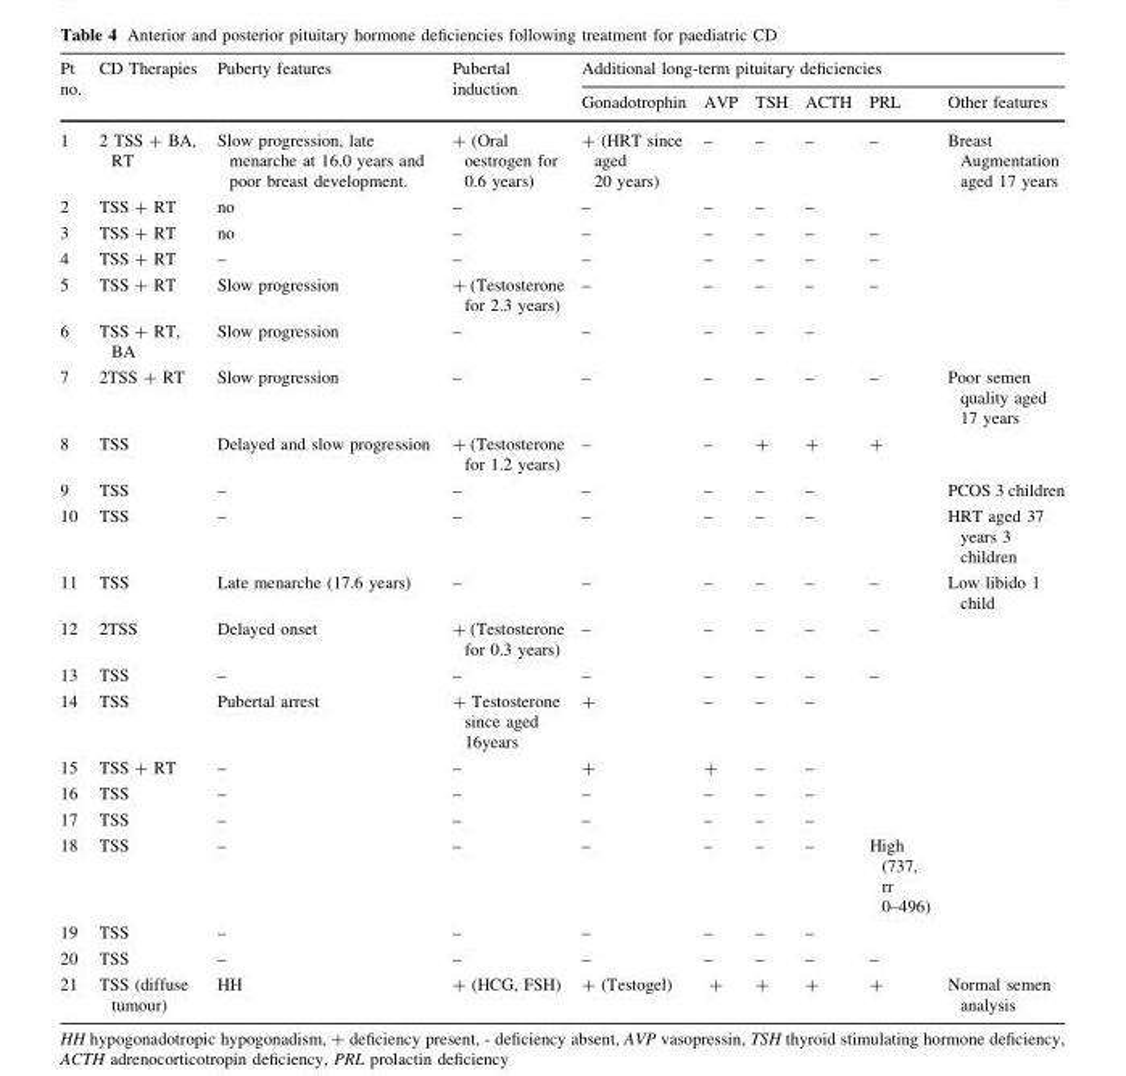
<table><thead><tr><td rowspan="2">Pt no.</td><td rowspan="2">CD Therapies</td><td rowspan="2">Puberty features</td><td rowspan="2">Pubertal induction</td><td colspan="6">Additional long-term pituitary deficiencies</td></tr><tr><td>Gonadotrophin</td><td>AVP</td><td>TSH</td><td>ACTH</td><td>PRL</td><td>Other features</td></tr></thead><tbody><tr><td>1</td><td>2 TSS + BA, RT</td><td>Slow progression, late menarche at 16.0 years and poor breast development.</td><td>+ (Oral oestrogen for 0.6 years)</td><td>+ (HRT since aged 20 years)</td><td>–</td><td>–</td><td>–</td><td>–</td><td>Breast Augmentation aged 17 years</td></tr><tr><td>2</td><td>TSS + RT</td><td>no</td><td>–</td><td>–</td><td>–</td><td>–</td><td>–</td><td></td><td></td></tr><tr><td>3</td><td>TSS + RT</td><td>no</td><td>–</td><td>–</td><td>–</td><td>–</td><td>–</td><td>–</td><td></td></tr><tr><td>4</td><td>TSS + RT</td><td>–</td><td>–</td><td>–</td><td>–</td><td>–</td><td>–</td><td>–</td><td></td></tr><tr><td>5</td><td>TSS + RT</td><td>Slow progression</td><td>+ (Testosterone for 2.3 years)</td><td>–</td><td>–</td><td>–</td><td>–</td><td>–</td><td></td></tr><tr><td>6</td><td>TSS + RT, BA</td><td>Slow progression</td><td>–</td><td>–</td><td>–</td><td>–</td><td>–</td><td></td><td></td></tr><tr><td>7</td><td>2TSS + RT</td><td>Slow progression</td><td>–</td><td>–</td><td>–</td><td>–</td><td>–</td><td>–</td><td>Poor semen quality aged 17 years</td></tr><tr><td>8</td><td>TSS</td><td>Delayed and slow progression</td><td>+ (Testosterone for 1.2 years)</td><td>–</td><td>–</td><td>+</td><td>+</td><td>+</td><td></td></tr><tr><td>9</td><td>TSS</td><td>–</td><td>–</td><td>–</td><td>–</td><td>–</td><td>–</td><td></td><td>PCOS 3 children</td></tr><tr><td>10</td><td>TSS</td><td>–</td><td>–</td><td>–</td><td>–</td><td>–</td><td>–</td><td></td><td>HRT aged 37 years 3 children</td></tr><tr><td>11</td><td>TSS</td><td>Late menarche (17.6 years)</td><td>–</td><td>–</td><td>–</td><td>–</td><td>–</td><td>–</td><td>Low libido 1 child</td></tr><tr><td>12</td><td>2TSS</td><td>Delayed onset</td><td>+ (Testosterone for 0.3 years)</td><td>–</td><td>–</td><td>–</td><td>–</td><td>–</td><td></td></tr><tr><td>13</td><td>TSS</td><td>–</td><td>–</td><td>–</td><td>–</td><td>–</td><td>–</td><td>–</td><td></td></tr><tr><td>14</td><td>TSS</td><td>Pubertal arrest</td><td>+ Testosterone since aged 16years</td><td>+</td><td>–</td><td>–</td><td>–</td><td></td><td></td></tr><tr><td>15</td><td>TSS + RT</td><td>–</td><td>–</td><td>+</td><td>+</td><td>–</td><td>–</td><td></td><td></td></tr><tr><td>16</td><td>TSS</td><td>–</td><td>–</td><td>–</td><td>–</td><td>–</td><td>–</td><td></td><td></td></tr><tr><td>17</td><td>TSS</td><td>–</td><td>–</td><td>–</td><td>–</td><td>–</td><td>–</td><td></td><td></td></tr><tr><td>18</td><td>TSS</td><td>–</td><td>–</td><td>–</td><td>–</td><td>–</td><td>–</td><td>High (737, rr 0–496)</td><td></td></tr><tr><td>19</td><td>TSS</td><td>–</td><td>–</td><td>–</td><td>–</td><td>–</td><td>–</td><td></td><td></td></tr><tr><td>20</td><td>TSS</td><td>–</td><td>–</td><td>–</td><td>–</td><td>–</td><td>–</td><td>–</td><td></td></tr><tr><td>21</td><td>TSS (diffuse tumour)</td><td>HH</td><td>+ (HCG, FSH)</td><td>+ (Testogel)</td><td>+</td><td>+</td><td>+</td><td>+</td><td>Normal semen analysis</td></tr></tbody></table>